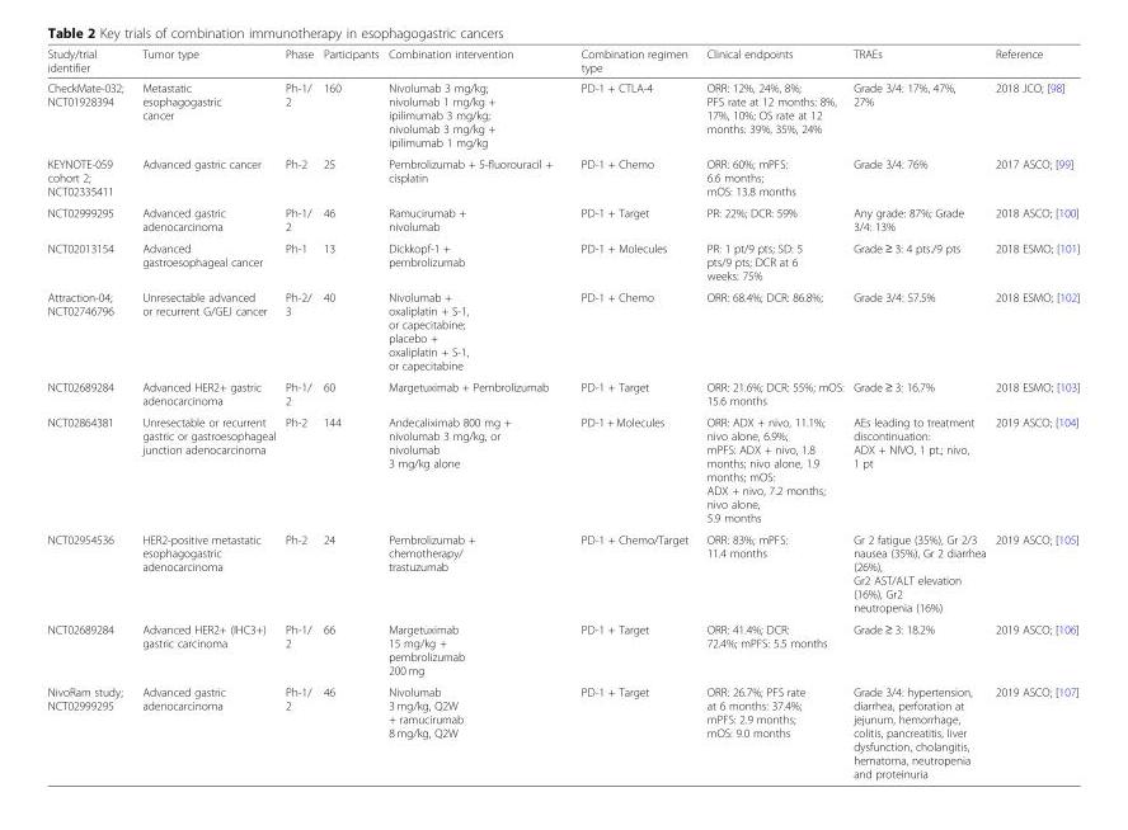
<table><thead><tr><td>Study/trial identifier</td><td>Tumor type</td><td>Phase</td><td>Participants</td><td>Combination intervention</td><td>Combination regimen type</td><td>Clinical endpoints</td><td>TRAEs</td><td>Reference</td></tr></thead><tbody><tr><td>CheckMate-032; NCT01928394</td><td>Metastatic esophagogastric cancer</td><td>Ph-1/ 2</td><td>160</td><td>Nivolumab 3 mg/kg; nivolumab 1 mg/kg + ipilimumab 3 mg/kg; nivolumab 3 mg/kg + ipilimumab 1 mg/kg</td><td>PD-1 + CTLA-4</td><td>ORR: 12%, 24%, 8%; PFS rate at 12 months: 8%, 17%, 10%; OS rate at 12 months: 39%, 35%, 24%</td><td>Grade 3/4: 17%, 47%, 27%</td><td>2018 JCO; [98]</td></tr><tr><td>KEYNOTE-059 cohort 2; NCT02335411</td><td>Advanced gastric cancer</td><td>Ph-2</td><td>25</td><td>Pembrolizumab + 5-fluorouracil + cisplatin</td><td>PD-1 + Chemo</td><td>ORR: 60%; mPFS: 6.6 months; mOS: 13.8 months</td><td>Grade 3/4: 76%</td><td>2017 ASCO; [99]</td></tr><tr><td>NCT02999295</td><td>Advanced gastric adenocarcinoma</td><td>Ph-1/ 2</td><td>46</td><td>Ramucirumab + nivolumab</td><td>PD-1 + Target</td><td>PR: 22%; DCR: 59%</td><td>Any grade: 87%; Grade 3/4: 13%</td><td>2018 ASCO; [100]</td></tr><tr><td>NCT02013154</td><td>Advanced gastroesophageal cancer</td><td>Ph-1</td><td>13</td><td>Dickkopf-1 + pembrolizumab</td><td>PD-1 + Molecules</td><td>PR: 1 pt/9 pts; SD: 5 pts/9 pts; DCR at 6 weeks: 75%</td><td>Grade ≥ 3: 4 pts./9 pts</td><td>2018 ESMO; [101]</td></tr><tr><td>Attraction-04; NCT02746796</td><td>Unresectable advanced or recurrent G/GEJ cancer</td><td>Ph-2/ 3</td><td>40</td><td>Nivolumab + oxaliplatin + S-1, or capecitabine; placebo + oxaliplatin + S-1, or capecitabine</td><td>PD-1 + Chemo</td><td>ORR: 68.4%; DCR: 86.8%;</td><td>Grade 3/4: 57.5%</td><td>2018 ESMO; [102]</td></tr><tr><td>NCT02689284</td><td>Advanced HER2+ gastric adenocarcinoma</td><td>Ph-1/ 2</td><td>60</td><td>Margetuximab + Pembrolizumab</td><td>PD-1 + Target</td><td>ORR: 21.6%; DCR: 55%; mOS: 15.6 months</td><td>Grade ≥ 3: 16.7%</td><td>2018 ESMO; [103]</td></tr><tr><td>NCT02864381</td><td>Unresectable or recurrent gastric or gastroesophageal junction adenocarcinoma</td><td>Ph-2</td><td>144</td><td>Andecaliximab 800 mg + nivolumab 3 mg/kg, or nivolumab 3 mg/kg alone</td><td>PD-1 + Molecules</td><td>ORR: ADX + nivo, 11.1%; nivo alone, 6.9%; mPFS: ADX + nivo, 1.8 months; nivo alone, 1.9 months; mOS: ADX + nivo, 7.2 months; nivo alone, 5.9 months</td><td>AEs leading to treatment discontinuation: ADX + NIVO, 1 pt.; nivo, 1 pt</td><td>2019 ASCO; [104]</td></tr><tr><td>NCT02954536</td><td>HER2-positive metastatic esophagogastric adenocarcinoma</td><td>Ph-2</td><td>24</td><td>Pembrolizumab + chemotherapy/ trastuzumab</td><td>PD-1 + Chemo/Target</td><td>ORR: 83%; mPFS: 11.4 months</td><td>Gr 2 fatigue (35%), Gr 2/3 nausea (35%), Gr 2 diarrhea (26%), Gr2 AST/ALT elevation (16%), Gr2 neutropenia (16%)</td><td>2019 ASCO; [105]</td></tr><tr><td>NCT02689284</td><td>Advanced HER2+ (IHC3+) gastric carcinoma</td><td>Ph-1/ 2</td><td>66</td><td>Margetuximab 15 mg/kg + pembrolizumab 200 mg</td><td>PD-1 + Target</td><td>ORR: 41.4%; DCR: 72.4%; mPFS: 5.5 months</td><td>Grade ≥ 3: 18.2%</td><td>2019 ASCO; [106]</td></tr><tr><td>NivoRam study; NCT02999295</td><td>Advanced gastric adenocarcinoma</td><td>Ph-1/ 2</td><td>46</td><td>Nivolumab 3 mg/kg, Q2W + ramucirumab 8 mg/kg, Q2W</td><td>PD-1 + Target</td><td>ORR: 26.7%; PFS rate at 6 months: 37.4%; mPFS: 2.9 months; mOS: 9.0 months</td><td>Grade 3/4: hypertension, diarrhea, perforation at jejunum, hemorrhage, colitis, pancreatitis, liver dysfunction, cholangitis, hematoma, neutropenia and proteinuria</td><td>2019 ASCO; [107]</td></tr></tbody></table>